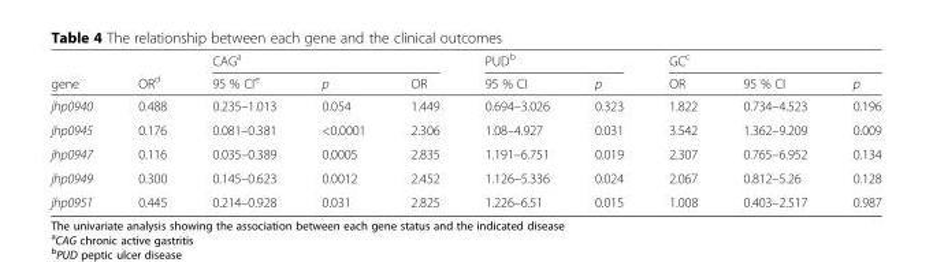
<table><thead><tr><td rowspan="2">gene</td><td rowspan="2">OR<sup>d</sup></td><td colspan="3">CAG<sup>a</sup></td><td colspan="2">PUD<sup>b</sup></td><td colspan="3">GC<sup>c</sup></td></tr><tr><td>95 % CI<sup>e</sup></td><td>p</td><td>OR</td><td>95 % CI</td><td>p</td><td>OR</td><td>95 % CI</td><td>p</td></tr></thead><tbody><tr><td>jhp0940</td><td>0.488</td><td>0.235–1.013</td><td>0.054</td><td>1.449</td><td>0.694–3.026</td><td>0.323</td><td>1.822</td><td>0.734–4.523</td><td>0.196</td></tr><tr><td>jhp0945</td><td>0.176</td><td>0.081–0.381</td><td>&lt;0.0001</td><td>2.306</td><td>1.08–4.927</td><td>0.031</td><td>3.542</td><td>1.362–9.209</td><td>0.009</td></tr><tr><td>jhp0947</td><td>0.116</td><td>0.035–0.389</td><td>0.0005</td><td>2.835</td><td>1.191–6.751</td><td>0.019</td><td>2.307</td><td>0.765–6.952</td><td>0.134</td></tr><tr><td>jhp0949</td><td>0.300</td><td>0.145–0.623</td><td>0.0012</td><td>2.452</td><td>1.126–5.336</td><td>0.024</td><td>2.067</td><td>0.812–5.26</td><td>0.128</td></tr><tr><td>jhp0951</td><td>0.445</td><td>0.214–0.928</td><td>0.031</td><td>2.825</td><td>1.226–6.51</td><td>0.015</td><td>1.008</td><td>0.403–2.517</td><td>0.987</td></tr></tbody></table>